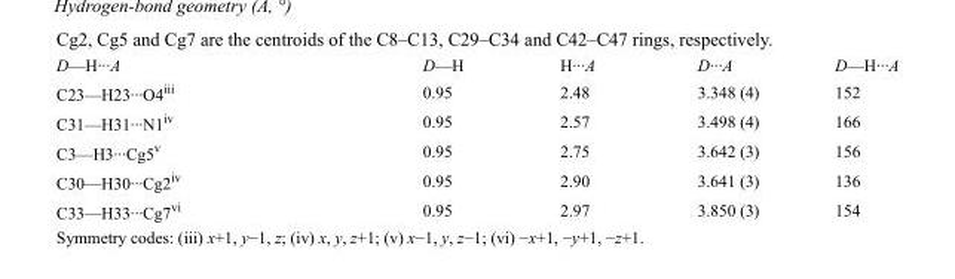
<table><tbody><tr><td>D—H···A</td><td>D—H</td><td>H···A</td><td>D···A</td><td>D—H···A</td></tr><tr><td>C23—H23···O4<sup>iii</sup></td><td>0.95</td><td>2.48</td><td>3.348 (4)</td><td>152</td></tr><tr><td>C31—H31···N1<sup>iv</sup></td><td>0.95</td><td>2.57</td><td>3.498 (4)</td><td>166</td></tr><tr><td>C3—H3···Cg5<sup>v</sup></td><td>0.95</td><td>2.75</td><td>3.642 (3)</td><td>156</td></tr><tr><td>C30—H30···Cg2<sup>iv</sup></td><td>0.95</td><td>2.90</td><td>3.641 (3)</td><td>136</td></tr><tr><td>C33—H33···Cg7<sup>vi</sup></td><td>0.95</td><td>2.97</td><td>3.850 (3)</td><td>154</td></tr></tbody></table>